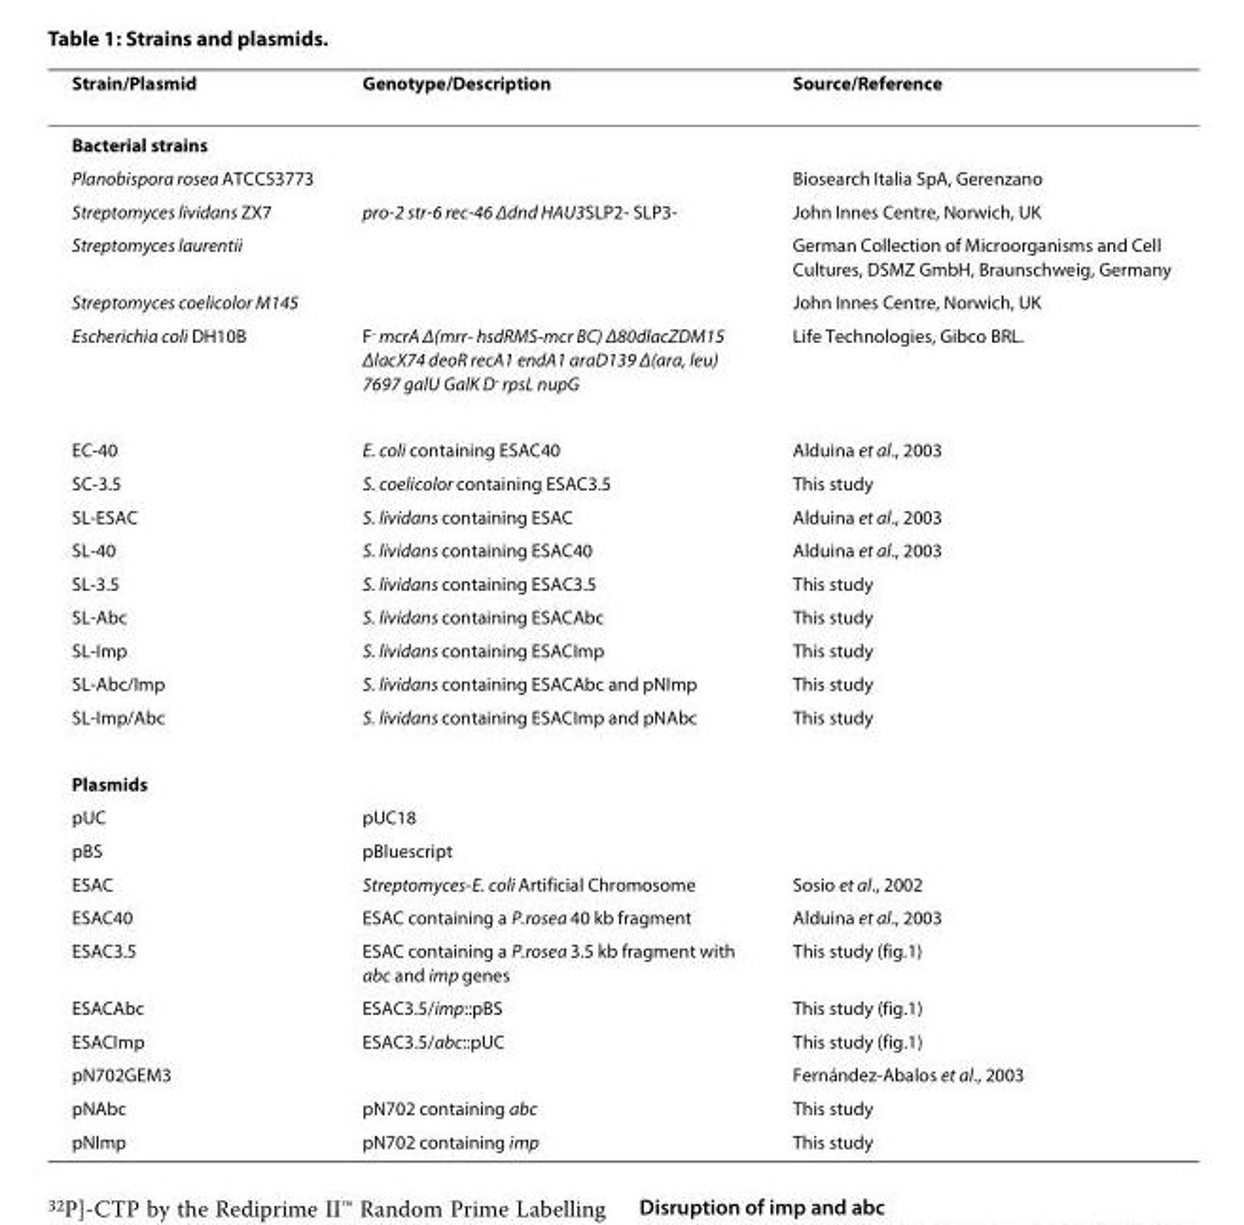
<table><thead><tr><td>Strain/Plasmid</td><td>Genotype/Description</td><td>Source/Reference</td></tr></thead><tbody><tr><td colspan="3">Bacterial strains</td></tr><tr><td>Planobispora rosea ATCC53773</td><td></td><td>Biosearch Italia SpA, Gerenzano</td></tr><tr><td>Streptomyces lividans ZX7</td><td>pro-2 str-6 rec-46 Δdnd HAU3SLP2- SLP3-</td><td>John Innes Centre, Norwich, UK</td></tr><tr><td>Streptomyces laurentii</td><td></td><td>German Collection of Microorganisms and Cell Cultures, DSMZ GmbH, Braunschweig, Germany</td></tr><tr><td>Streptomyces coelicolor M145</td><td></td><td>John Innes Centre, Norwich, UK</td></tr><tr><td>Escherichia coli DH10B</td><td>F<sup>-</sup> mcrA Δ(mrr- hsdRMS-mcr BC) Δ80dlacZDM15 ΔlacX74 deoR recA1 endA1 araD139 Δ(ara, leu) 7697 galU GalK D<sup>-</sup> rpsL nupG</td><td>Life Technologies, Gibco BRL.</td></tr><tr><td>EC-40</td><td>E. coli containing ESAC40</td><td>Alduina et al., 2003</td></tr><tr><td>SC-3.5</td><td>S. coelicolor containing ESAC3.5</td><td>This study</td></tr><tr><td>SL-ESAC</td><td>S. lividans containing ESAC</td><td>Alduina et al., 2003</td></tr><tr><td>SL-40</td><td>S. lividans containing ESAC40</td><td>Alduina et al., 2003</td></tr><tr><td>SL-3.5</td><td>S. lividans containing ESAC3.5</td><td>This study</td></tr><tr><td>SL-Abc</td><td>S. lividans containing ESACAbc</td><td>This study</td></tr><tr><td>SL-Imp</td><td>S. lividans containing ESACImp</td><td>This study</td></tr><tr><td>SL-Abc/Imp</td><td>S. lividans containing ESACAbc and pNImp</td><td>This study</td></tr><tr><td>SL-Imp/Abc</td><td>S. lividans containing ESACImp and pNAbc</td><td>This study</td></tr><tr><td colspan="3">Plasmids</td></tr><tr><td>pUC</td><td>pUC18</td><td></td></tr><tr><td>pBS</td><td>pBluescript</td><td></td></tr><tr><td>ESAC</td><td>Streptomyces-E. coli Artificial Chromosome</td><td>Sosio et al., 2002</td></tr><tr><td>ESAC40</td><td>ESAC containing a P.rosea 40 kb fragment</td><td>Alduina et al., 2003</td></tr><tr><td>ESAC3.5</td><td>ESAC containing a P.rosea 3.5 kb fragment with abc and imp genes</td><td>This study (fig.1)</td></tr><tr><td>ESACAbc</td><td>ESAC3.5/imp::pBS</td><td>This study (fig.1)</td></tr><tr><td>ESACImp</td><td>ESAC3.5/abc::pUC</td><td>This study (fig.1)</td></tr><tr><td>pN702GEM3</td><td></td><td>Fernández-Abalos et al., 2003</td></tr><tr><td>pNAbc</td><td>pN702 containing abc</td><td>This study</td></tr><tr><td>pNImp</td><td>pN702 containing imp</td><td>This study</td></tr></tbody></table>